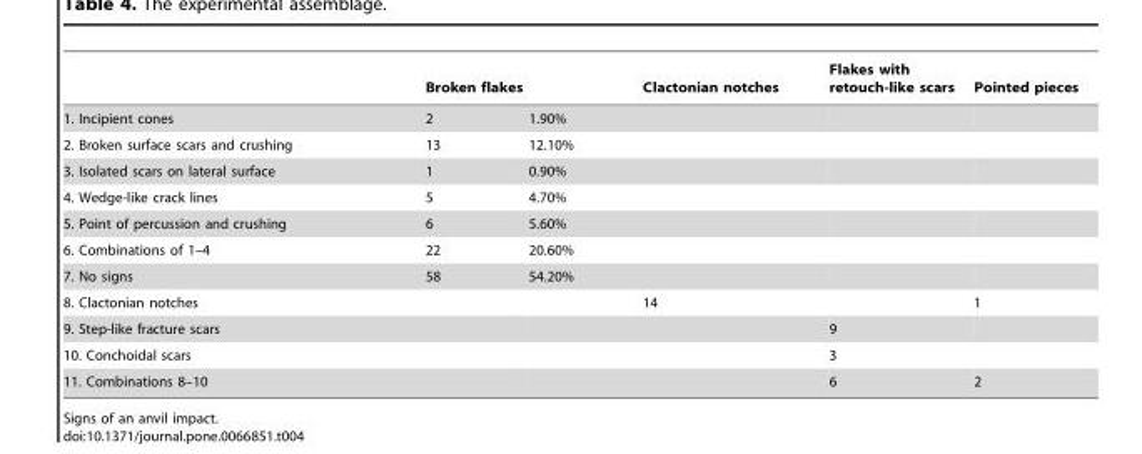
<table><thead><tr><td rowspan="2">1. Incipient cones</td><td colspan="2">Broken flakes</td><td rowspan="2">Clactonian notches</td><td rowspan="2">Flakes with retouch-like scars</td><td rowspan="2">Pointed pieces</td></tr><tr><td>2</td><td>1.90%</td></tr></thead><tbody><tr><td>2. Broken surface scars and crushing</td><td>13</td><td>12.10%</td><td></td><td></td><td></td></tr><tr><td>3. Isolated scars on lateral surface</td><td>1</td><td>0.90%</td><td></td><td></td><td></td></tr><tr><td>4. Wedge-like crack lines</td><td>5</td><td>4.70%</td><td></td><td></td><td></td></tr><tr><td>5. Point of percussion and crushing</td><td>6</td><td>5.60%</td><td></td><td></td><td></td></tr><tr><td>6. Combinations of 1–4</td><td>22</td><td>20.60%</td><td></td><td></td><td></td></tr><tr><td>7. No signs</td><td>58</td><td>54.20%</td><td></td><td></td><td></td></tr><tr><td>8. Clactonian notches</td><td></td><td></td><td>14</td><td></td><td>1</td></tr><tr><td>9. Step-like fracture scars</td><td></td><td></td><td></td><td>9</td><td></td></tr><tr><td>10. Conchoidal scars</td><td></td><td></td><td></td><td>3</td><td></td></tr><tr><td>11. Combinations 8–10</td><td></td><td></td><td></td><td>6</td><td>2</td></tr></tbody></table>